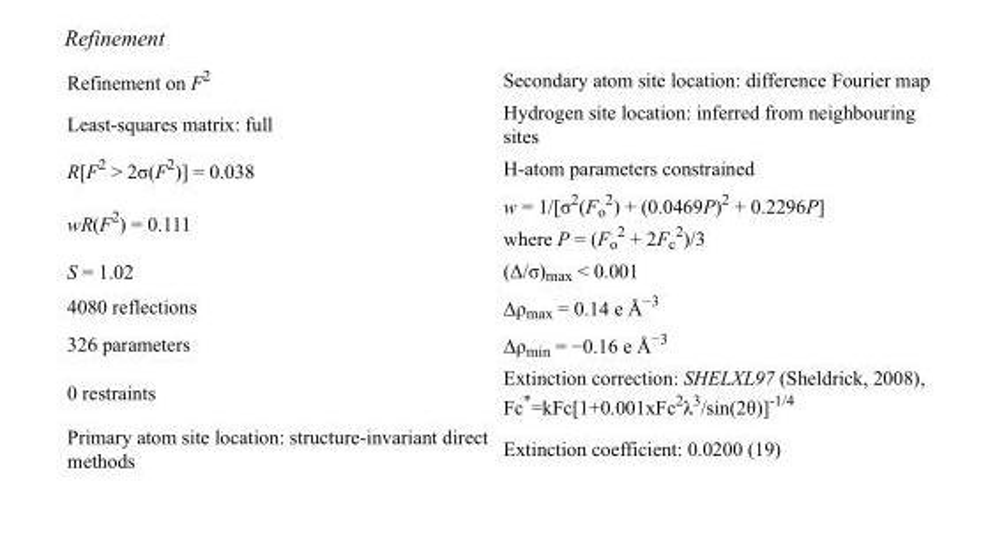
<table><tbody><tr><td>Refinement on F<sup>2</sup></td><td>Secondary atom site location: difference Fourier map</td></tr><tr><td>Least-squares matrix: full</td><td>Hydrogen site location: inferred from neighbouring sites</td></tr><tr><td>R[F<sup>2</sup> &gt; 2σ(F<sup>2</sup>)] = 0.038</td><td>H-atom parameters constrained</td></tr><tr><td>wR(F<sup>2</sup>) = 0.111</td><td>w = 1/[σ<sup>2</sup>(F<sub>o</sub> <sup>2</sup>) + (0.0469P)<sup>2</sup> + 0.2296P] where P = (F<sub>o</sub> <sup>2</sup> + 2F<sub>c</sub> <sup>2</sup>)/3</td></tr><tr><td>S = 1.02</td><td>(Δ/σ)<sub>max</sub> &lt; 0.001</td></tr><tr><td>4080 reflections</td><td>Δρ<sub>max</sub> = 0.14 e Å<sup>−3</sup></td></tr><tr><td>326 parameters</td><td>Δρ<sub>min</sub> = −0.16 e Å<sup>−3</sup></td></tr><tr><td>0 restraints</td><td>Extinction correction: SHELXL97 (Sheldrick, 2008), Fc*=kFc[1+0.001xFc<sup>2</sup>λ<sup>3</sup>/sin(2θ)]<sup>-1/4</sup></td></tr><tr><td>Primary atom site location: structure-invariant direct methods</td><td>Extinction coefficient: 0.0200 (19)</td></tr></tbody></table>